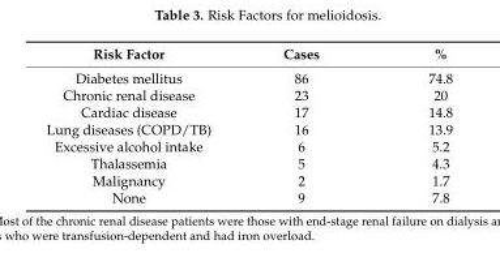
<table><thead><tr><td>Risk Factor</td><td>Cases</td><td>%</td></tr></thead><tbody><tr><td>Diabetes mellitus</td><td>86</td><td>74.8</td></tr><tr><td>Chronic renal disease</td><td>23</td><td>20</td></tr><tr><td>Cardiac disease</td><td>17</td><td>14.8</td></tr><tr><td>Lung diseases (COPD/TB)</td><td>16</td><td>13.9</td></tr><tr><td>Excessive alcohol intake</td><td>6</td><td>5.2</td></tr><tr><td>Thalassemia</td><td>5</td><td>4.3</td></tr><tr><td>Malignancy</td><td>2</td><td>1.7</td></tr><tr><td>None</td><td>9</td><td>7.8</td></tr></tbody></table>